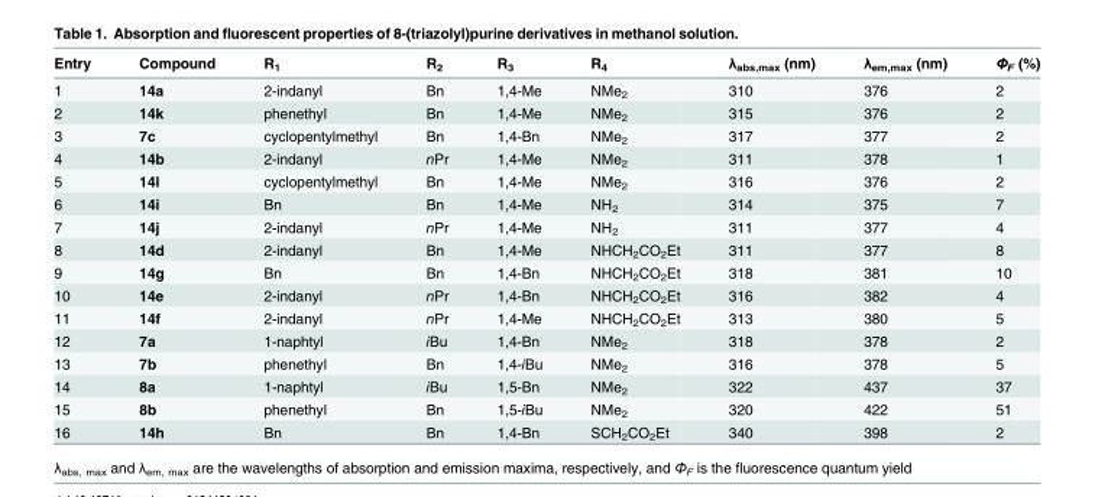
<table><thead><tr><td>Entry</td><td>Compound</td><td>R<sub>1</sub></td><td>R<sub>2</sub></td><td>R<sub>3</sub></td><td>R<sub>4</sub></td><td>λ<sub>abs,max</sub> (nm)</td><td>λ<sub>em,max</sub> (nm)</td><td>Φ<sub>F</sub> (%)</td></tr></thead><tbody><tr><td>1</td><td>14a</td><td>2-indanyl</td><td>Bn</td><td>1,4-Me</td><td>NMe<sub>2</sub></td><td>310</td><td>376</td><td>2</td></tr><tr><td>2</td><td>14k</td><td>phenethyl</td><td>Bn</td><td>1,4-Me</td><td>NMe<sub>2</sub></td><td>315</td><td>376</td><td>2</td></tr><tr><td>3</td><td>7c</td><td>cyclopentylmethyl</td><td>Bn</td><td>1,4-Bn</td><td>NMe<sub>2</sub></td><td>317</td><td>377</td><td>2</td></tr><tr><td>4</td><td>14b</td><td>2-indanyl</td><td>nPr</td><td>1,4-Me</td><td>NMe<sub>2</sub></td><td>311</td><td>378</td><td>1</td></tr><tr><td>5</td><td>14l</td><td>cyclopentylmethyl</td><td>Bn</td><td>1,4-Me</td><td>NMe<sub>2</sub></td><td>316</td><td>376</td><td>2</td></tr><tr><td>6</td><td>14i</td><td>Bn</td><td>Bn</td><td>1,4-Me</td><td>NH<sub>2</sub></td><td>314</td><td>375</td><td>7</td></tr><tr><td>7</td><td>14j</td><td>2-indanyl</td><td>nPr</td><td>1,4-Me</td><td>NH<sub>2</sub></td><td>311</td><td>377</td><td>4</td></tr><tr><td>8</td><td>14d</td><td>2-indanyl</td><td>Bn</td><td>1,4-Me</td><td>NHCH<sub>2</sub>CO<sub>2</sub>Et</td><td>311</td><td>377</td><td>8</td></tr><tr><td>9</td><td>14g</td><td>Bn</td><td>Bn</td><td>1,4-Bn</td><td>NHCH<sub>2</sub>CO<sub>2</sub>Et</td><td>318</td><td>381</td><td>10</td></tr><tr><td>10</td><td>14e</td><td>2-indanyl</td><td>nPr</td><td>1,4-Bn</td><td>NHCH<sub>2</sub>CO<sub>2</sub>Et</td><td>316</td><td>382</td><td>4</td></tr><tr><td>11</td><td>14f</td><td>2-indanyl</td><td>nPr</td><td>1,4-Me</td><td>NHCH<sub>2</sub>CO<sub>2</sub>Et</td><td>313</td><td>380</td><td>5</td></tr><tr><td>12</td><td>7a</td><td>1-naphtyl</td><td>iBu</td><td>1,4-Bn</td><td>NMe<sub>2</sub></td><td>318</td><td>378</td><td>2</td></tr><tr><td>13</td><td>7b</td><td>phenethyl</td><td>Bn</td><td>1,4-iBu</td><td>NMe<sub>2</sub></td><td>316</td><td>378</td><td>5</td></tr><tr><td>14</td><td>8a</td><td>1-naphtyl</td><td>iBu</td><td>1,5-Bn</td><td>NMe<sub>2</sub></td><td>322</td><td>437</td><td>37</td></tr><tr><td>15</td><td>8b</td><td>phenethyl</td><td>Bn</td><td>1,5-iBu</td><td>NMe<sub>2</sub></td><td>320</td><td>422</td><td>51</td></tr><tr><td>16</td><td>14h</td><td>Bn</td><td>Bn</td><td>1,4-Bn</td><td>SCH<sub>2</sub>CO<sub>2</sub>Et</td><td>340</td><td>398</td><td>2</td></tr></tbody></table>